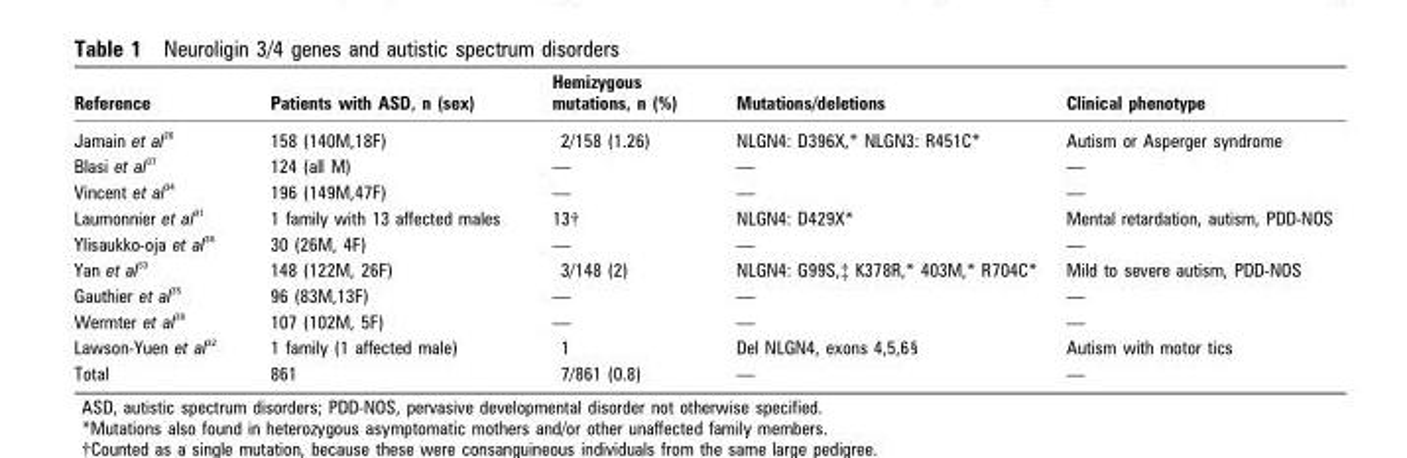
<table><thead><tr><td>Reference</td><td>Patients with ASD, n (sex)</td><td>Hemizygous mutations, n (%)</td><td>Mutations/deletions</td><td>Clinical phenotype</td></tr></thead><tbody><tr><td>Jamain et al <sup>26</sup></td><td>158 (140M,18F)</td><td>2/158 (1.26)</td><td>NLGN4: D396X,* NLGN3: R451C*</td><td>Autism or Asperger syndrome</td></tr><tr><td>Blasi et al <sup>37</sup></td><td>124 (all M)</td><td>—</td><td>—</td><td>—</td></tr><tr><td>Vincent et al <sup>34</sup></td><td>196 (149M,47F)</td><td>—</td><td>—</td><td>—</td></tr><tr><td>Laumonnier et al <sup>31</sup></td><td>1 family with 13 affected males</td><td>13†</td><td>NLGN4: D429X*</td><td>Mental retardation, autism, PDD-NOS</td></tr><tr><td>Ylisaukko-oja et al <sup>36</sup></td><td>30 (26M, 4F)</td><td>—</td><td>—</td><td>—</td></tr><tr><td>Yan et al <sup>33</sup></td><td>148 (122M, 26F)</td><td>3/148 (2)</td><td>NLGN4: G99S,‡ K378R,* 403M,* R704C*</td><td>Mild to severe autism, PDD-NOS</td></tr><tr><td>Gauthier et al <sup>35</sup></td><td>96 (83M,13F)</td><td>—</td><td>—</td><td>—</td></tr><tr><td>Wermter et al <sup>38</sup></td><td>107 (102M, 5F)</td><td>—</td><td>—</td><td>—</td></tr><tr><td>Lawson-Yuen et al <sup>32</sup></td><td>1 family (1 affected male)</td><td>1</td><td>Del NLGN4, exons 4,5,6§</td><td>Autism with motor tics</td></tr><tr><td>Total</td><td>861</td><td>7/861 (0.8)</td><td>—</td><td>—</td></tr></tbody></table>